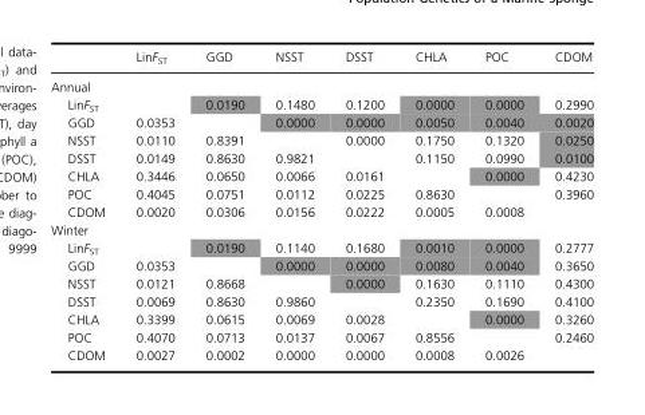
<table><thead><tr><td></td><td>LinF<sub>ST</sub></td><td>GGD</td><td>NSST</td><td>DSST</td><td>CHLA</td><td>POC</td><td>CDOM</td></tr></thead><tbody><tr><td colspan="8">Annual</td></tr><tr><td>LinF<sub>ST</sub></td><td></td><td>0.0190</td><td>0.1480</td><td>0.1200</td><td>0.0000</td><td>0.0000</td><td>0.2990</td></tr><tr><td>GGD</td><td>0.0353</td><td></td><td>0.0000</td><td>0.0000</td><td>0.0050</td><td>0.0040</td><td>0.0020</td></tr><tr><td>NSST</td><td>0.0110</td><td>0.8391</td><td></td><td>0.0000</td><td>0.1750</td><td>0.1320</td><td>0.0250</td></tr><tr><td>DSST</td><td>0.0149</td><td>0.8630</td><td>0.9821</td><td></td><td>0.1150</td><td>0.0990</td><td>0.0100</td></tr><tr><td>CHLA</td><td>0.3446</td><td>0.0650</td><td>0.0066</td><td>0.0161</td><td></td><td>0.0000</td><td>0.4230</td></tr><tr><td>POC</td><td>0.4045</td><td>0.0751</td><td>0.0112</td><td>0.0225</td><td>0.8630</td><td></td><td>0.3960</td></tr><tr><td>CDOM</td><td>0.0020</td><td>0.0306</td><td>0.0156</td><td>0.0222</td><td>0.0005</td><td>0.0008</td><td></td></tr><tr><td colspan="8">Winter</td></tr><tr><td>LinF<sub>ST</sub></td><td></td><td>0.0190</td><td>0.1140</td><td>0.1680</td><td>0.0010</td><td>0.0000</td><td>0.2777</td></tr><tr><td>GGD</td><td>0.0353</td><td></td><td>0.0000</td><td>0.0000</td><td>0.0080</td><td>0.0040</td><td>0.3650</td></tr><tr><td>NSST</td><td>0.0121</td><td>0.8668</td><td></td><td>0.0000</td><td>0.1630</td><td>0.1110</td><td>0.4300</td></tr><tr><td>DSST</td><td>0.0069</td><td>0.8630</td><td>0.9860</td><td></td><td>0.2350</td><td>0.1690</td><td>0.4100</td></tr><tr><td>CHLA</td><td>0.3399</td><td>0.0615</td><td>0.0069</td><td>0.0028</td><td></td><td>0.0000</td><td>0.3260</td></tr><tr><td>POC</td><td>0.4070</td><td>0.0713</td><td>0.0137</td><td>0.0067</td><td>0.8556</td><td></td><td>0.2460</td></tr><tr><td>CDOM</td><td>0.0027</td><td>0.0002</td><td>0.0000</td><td>0.0000</td><td>0.0008</td><td>0.0026</td><td></td></tr></tbody></table>